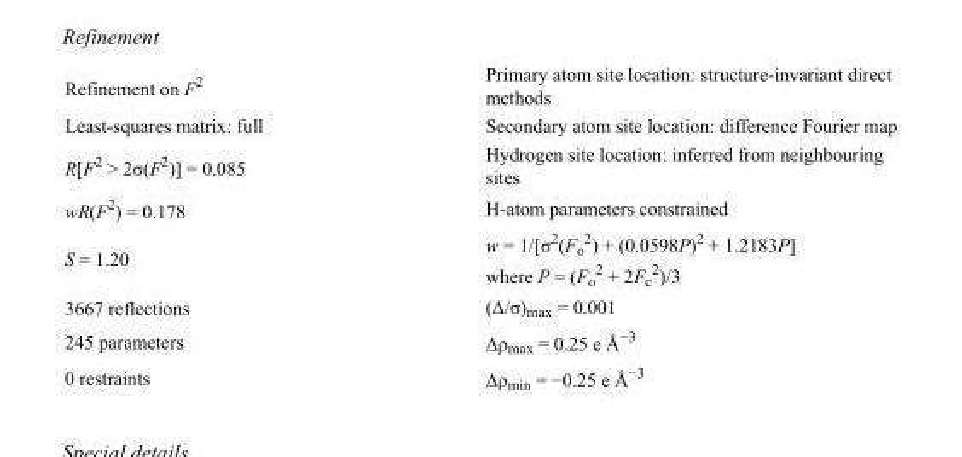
<table><tbody><tr><td>Refinement on F<sup>2</sup></td><td>Primary atom site location: structure-invariant direct methods</td></tr><tr><td>Least-squares matrix: full</td><td>Secondary atom site location: difference Fourier map</td></tr><tr><td>R[F<sup>2</sup> &gt; 2σ(F<sup>2</sup>)] = 0.085</td><td>Hydrogen site location: inferred from neighbouring sites</td></tr><tr><td>wR(F<sup>2</sup>) = 0.178</td><td>H-atom parameters constrained</td></tr><tr><td>S = 1.20</td><td>w = 1/[σ<sup>2</sup>(F<sub>o</sub> <sup>2</sup>) + (0.0598P)<sup>2</sup> + 1.2183P] where P = (F<sub>o</sub> <sup>2</sup> + 2F<sub>c</sub> <sup>2</sup>)/3</td></tr><tr><td>3667 reflections</td><td>(Δ/σ)<sub>max</sub> = 0.001</td></tr><tr><td>245 parameters</td><td>Δρ<sub>max</sub> = 0.25 e Å<sup>−3</sup></td></tr><tr><td>0 restraints</td><td>Δρ<sub>min</sub> = −0.25 e Å<sup>−3</sup></td></tr></tbody></table>